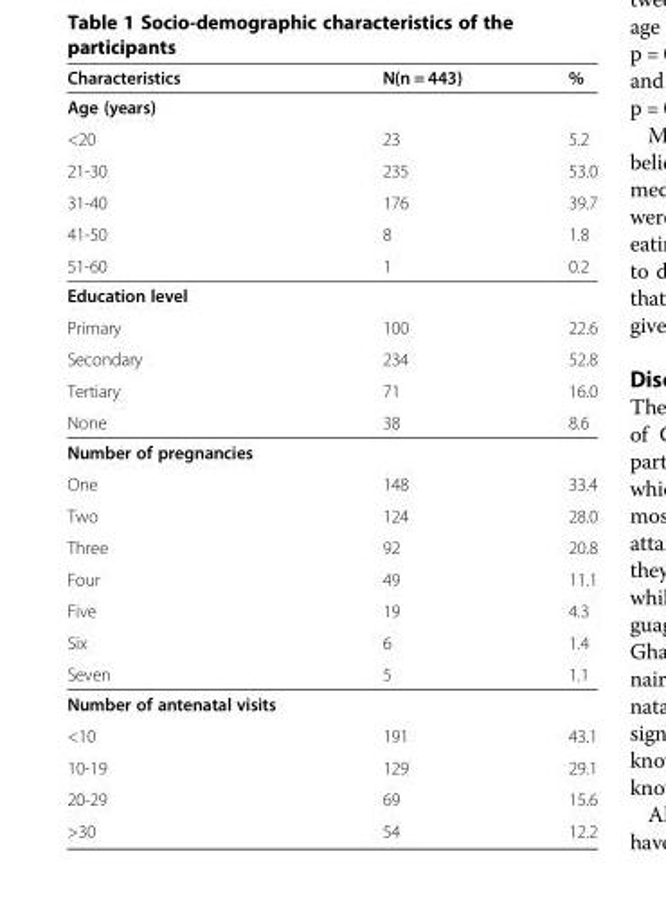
<table><thead><tr><td>Characteristics</td><td>N(n = 443)</td><td>%</td></tr></thead><tbody><tr><td colspan="3">Age (years)</td></tr><tr><td>&lt;20</td><td>23</td><td>5.2</td></tr><tr><td>21-30</td><td>235</td><td>53.0</td></tr><tr><td>31-40</td><td>176</td><td>39.7</td></tr><tr><td>41-50</td><td>8</td><td>1.8</td></tr><tr><td>51-60</td><td>1</td><td>0.2</td></tr><tr><td colspan="3">Education level</td></tr><tr><td>Primary</td><td>100</td><td>22.6</td></tr><tr><td>Secondary</td><td>234</td><td>52.8</td></tr><tr><td>Tertiary</td><td>71</td><td>16.0</td></tr><tr><td>None</td><td>38</td><td>8.6</td></tr><tr><td colspan="3">Number of pregnancies</td></tr><tr><td>One</td><td>148</td><td>33.4</td></tr><tr><td>Two</td><td>124</td><td>28.0</td></tr><tr><td>Three</td><td>92</td><td>20.8</td></tr><tr><td>Four</td><td>49</td><td>11.1</td></tr><tr><td>Five</td><td>19</td><td>4.3</td></tr><tr><td>Six</td><td>6</td><td>1.4</td></tr><tr><td>Seven</td><td>5</td><td>1.1</td></tr><tr><td colspan="3">Number of antenatal visits</td></tr><tr><td>&lt;10</td><td>191</td><td>43.1</td></tr><tr><td>10-19</td><td>129</td><td>29.1</td></tr><tr><td>20-29</td><td>69</td><td>15.6</td></tr><tr><td>&gt;30</td><td>54</td><td>12.2</td></tr></tbody></table>